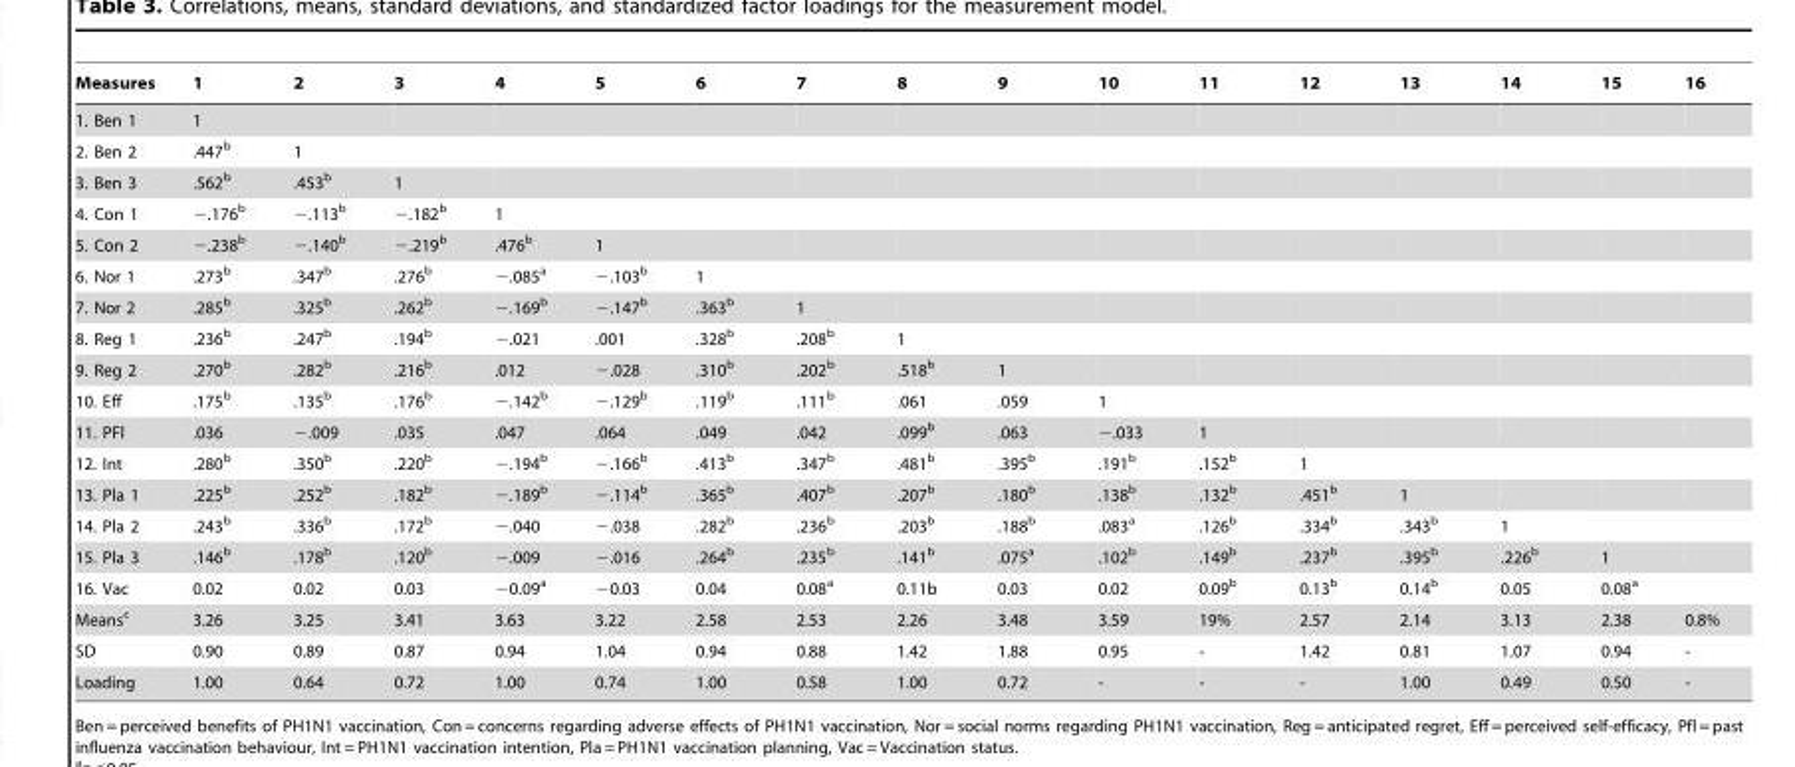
<table><thead><tr><td>Measures</td><td>1</td><td>2</td><td>3</td><td>4</td><td>5</td><td>6</td><td>7</td><td>8</td><td>9</td><td>10</td><td>11</td><td>12</td><td>13</td><td>14</td><td>15</td><td>16</td></tr></thead><tbody><tr><td>1. Ben 1</td><td>1</td><td></td><td></td><td></td><td></td><td></td><td></td><td></td><td></td><td></td><td></td><td></td><td></td><td></td><td></td><td></td></tr><tr><td>2. Ben 2</td><td>.447<sup>b</sup></td><td>1</td><td></td><td></td><td></td><td></td><td></td><td></td><td></td><td></td><td></td><td></td><td></td><td></td><td></td><td></td></tr><tr><td>3. Ben 3</td><td>.562<sup>b</sup></td><td>.453<sup>b</sup></td><td>1</td><td></td><td></td><td></td><td></td><td></td><td></td><td></td><td></td><td></td><td></td><td></td><td></td><td></td></tr><tr><td>4. Con 1</td><td>−.176<sup>b</sup></td><td>−.113<sup>b</sup></td><td>−.182<sup>b</sup></td><td>1</td><td></td><td></td><td></td><td></td><td></td><td></td><td></td><td></td><td></td><td></td><td></td><td></td></tr><tr><td>5. Con 2</td><td>−.238<sup>b</sup></td><td>−.140<sup>b</sup></td><td>−.219<sup>b</sup></td><td>.476<sup>b</sup></td><td>1</td><td></td><td></td><td></td><td></td><td></td><td></td><td></td><td></td><td></td><td></td><td></td></tr><tr><td>6. Nor 1</td><td>.273<sup>b</sup></td><td>.347<sup>b</sup></td><td>.276<sup>b</sup></td><td>−.085<sup>a</sup></td><td>−.103<sup>b</sup></td><td>1</td><td></td><td></td><td></td><td></td><td></td><td></td><td></td><td></td><td></td><td></td></tr><tr><td>7. Nor 2</td><td>.285<sup>b</sup></td><td>.325<sup>b</sup></td><td>.262<sup>b</sup></td><td>−.169<sup>b</sup></td><td>−.147<sup>b</sup></td><td>.363<sup>b</sup></td><td>1</td><td></td><td></td><td></td><td></td><td></td><td></td><td></td><td></td><td></td></tr><tr><td>8. Reg 1</td><td>.236<sup>b</sup></td><td>.247<sup>b</sup></td><td>.194<sup>b</sup></td><td>−.021</td><td>.001</td><td>.328<sup>b</sup></td><td>.208<sup>b</sup></td><td>1</td><td></td><td></td><td></td><td></td><td></td><td></td><td></td><td></td></tr><tr><td>9. Reg 2</td><td>.270<sup>b</sup></td><td>.282<sup>b</sup></td><td>.216<sup>b</sup></td><td>.012</td><td>−.028</td><td>.310<sup>b</sup></td><td>.202<sup>b</sup></td><td>.518<sup>b</sup></td><td>1</td><td></td><td></td><td></td><td></td><td></td><td></td><td></td></tr><tr><td>10. Eff</td><td>.175<sup>b</sup></td><td>.135<sup>b</sup></td><td>.176<sup>b</sup></td><td>−.142<sup>b</sup></td><td>−.129<sup>b</sup></td><td>.119<sup>b</sup></td><td>.111<sup>b</sup></td><td>.061</td><td>.059</td><td>1</td><td></td><td></td><td></td><td></td><td></td><td></td></tr><tr><td>11. PFl</td><td>.036</td><td>−.009</td><td>.035</td><td>.047</td><td>.064</td><td>.049</td><td>.042</td><td>.099<sup>b</sup></td><td>.063</td><td>−.033</td><td>1</td><td></td><td></td><td></td><td></td><td></td></tr><tr><td>12. Int</td><td>.280<sup>b</sup></td><td>.350<sup>b</sup></td><td>.220<sup>b</sup></td><td>−.194<sup>b</sup></td><td>−.166<sup>b</sup></td><td>.413<sup>b</sup></td><td>.347<sup>b</sup></td><td>.481<sup>b</sup></td><td>.395<sup>b</sup></td><td>.191<sup>b</sup></td><td>.152<sup>b</sup></td><td>1</td><td></td><td></td><td></td><td></td></tr><tr><td>13. Pla 1</td><td>.225<sup>b</sup></td><td>.252<sup>b</sup></td><td>.182<sup>b</sup></td><td>−.189<sup>b</sup></td><td>−.114<sup>b</sup></td><td>.365<sup>b</sup></td><td>.407<sup>b</sup></td><td>.207<sup>b</sup></td><td>.180<sup>b</sup></td><td>.138<sup>b</sup></td><td>.132<sup>b</sup></td><td>.451<sup>b</sup></td><td>1</td><td></td><td></td><td></td></tr><tr><td>14. Pla 2</td><td>.243<sup>b</sup></td><td>.336<sup>b</sup></td><td>.172<sup>b</sup></td><td>−.040</td><td>−.038</td><td>.282<sup>b</sup></td><td>.236<sup>b</sup></td><td>.203<sup>b</sup></td><td>.188<sup>b</sup></td><td>.083<sup>a</sup></td><td>.126<sup>b</sup></td><td>.334<sup>b</sup></td><td>.343<sup>b</sup></td><td>1</td><td></td><td></td></tr><tr><td>15. Pla 3</td><td>.146<sup>b</sup></td><td>.178<sup>b</sup></td><td>.120<sup>b</sup></td><td>−.009</td><td>−.016</td><td>.264<sup>b</sup></td><td>.235<sup>b</sup></td><td>.141<sup>b</sup></td><td>.075<sup>a</sup></td><td>.102<sup>b</sup></td><td>.149<sup>b</sup></td><td>.237<sup>b</sup></td><td>.395<sup>b</sup></td><td>.226<sup>b</sup></td><td>1</td><td></td></tr><tr><td>16. Vac</td><td>0.02</td><td>0.02</td><td>0.03</td><td>−0.09<sup>a</sup></td><td>−0.03</td><td>0.04</td><td>0.08<sup>a</sup></td><td>0.11b</td><td>0.03</td><td>0.02</td><td>0.09<sup>b</sup></td><td>0.13<sup>b</sup></td><td>0.14<sup>b</sup></td><td>0.05</td><td>0.08<sup>a</sup></td><td></td></tr><tr><td>Means<sup>c</sup></td><td>3.26</td><td>3.25</td><td>3.41</td><td>3.63</td><td>3.22</td><td>2.58</td><td>2.53</td><td>2.26</td><td>3.48</td><td>3.59</td><td>19%</td><td>2.57</td><td>2.14</td><td>3.13</td><td>2.38</td><td>0.8%</td></tr><tr><td>SD</td><td>0.90</td><td>0.89</td><td>0.87</td><td>0.94</td><td>1.04</td><td>0.94</td><td>0.88</td><td>1.42</td><td>1.88</td><td>0.95</td><td>-</td><td>1.42</td><td>0.81</td><td>1.07</td><td>0.94</td><td>-</td></tr><tr><td>Loading</td><td>1.00</td><td>0.64</td><td>0.72</td><td>1.00</td><td>0.74</td><td>1.00</td><td>0.58</td><td>1.00</td><td>0.72</td><td>-</td><td>-</td><td>-</td><td>1.00</td><td>0.49</td><td>0.50</td><td>-</td></tr></tbody></table>